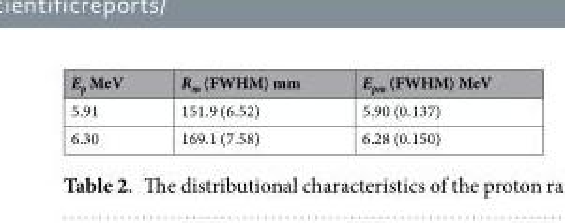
<table><thead><tr><td>E<sub>p</sub> MeV</td><td>R<sub>m</sub> (FWHM) mm</td><td>E<sub>pm</sub> (FWHM) MeV</td></tr></thead><tbody><tr><td>5.91</td><td>151.9 (6.52)</td><td>5.90 (0.137)</td></tr><tr><td>6.30</td><td>169.1 (7.58)</td><td>6.28 (0.150)</td></tr></tbody></table>